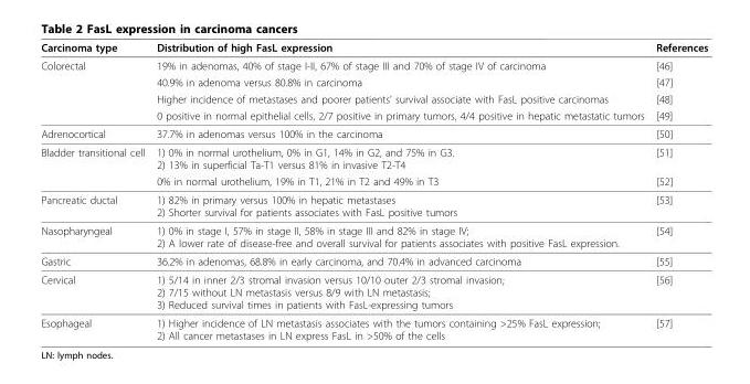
<table><thead><tr><td>Carcinoma type</td><td>Distribution of high FasL expression</td><td>References</td></tr></thead><tbody><tr><td rowspan="4">Colorectal</td><td>19% in adenomas, 40% of stage I-II, 67% of stage III and 70% of stage IV of carcinoma</td><td>[46]</td></tr><tr><td>40.9% in adenoma versus 80.8% in carcinoma</td><td>[47]</td></tr><tr><td>Higher incidence of metastases and poorer patients’ survival associate with FasL positive carcinomas</td><td>[48]</td></tr><tr><td>0 positive in normal epithelial cells, 2/7 positive in primary tumors, 4/4 positive in hepatic metastatic tumors</td><td>[49]</td></tr><tr><td>Adrenocortical</td><td>37.7% in adenomas versus 100% in the carcinoma</td><td>[50]</td></tr><tr><td rowspan="2">Bladder transitional cell</td><td>1) 0% in normal urothelium, 0% in G1, 14% in G2, and 75% in G3. 2) 13% in superficial Ta-T1 versus 81% in invasive T2-T4</td><td>[51]</td></tr><tr><td>0% in normal urothelium, 19% in T1, 21% in T2 and 49% in T3</td><td>[52]</td></tr><tr><td>Pancreatic ductal</td><td>1) 82% in primary versus 100% in hepatic metastases 2) Shorter survival for patients associates with FasL positive tumors</td><td>[53]</td></tr><tr><td>Nasopharyngeal</td><td>1) 0% in stage I, 57% in stage II, 58% in stage III and 82% in stage IV; 2) A lower rate of disease-free and overall survival for patients associates with positive FasL expression.</td><td>[54]</td></tr><tr><td>Gastric</td><td>36.2% in adenomas, 68.8% in early carcinoma, and 70.4% in advanced carcinoma</td><td>[55]</td></tr><tr><td>Cervical</td><td>1) 5/14 in inner 2/3 stromal invasion versus 10/10 outer 2/3 stromal invasion; 2) 7/15 without LN metastasis versus 8/9 with LN metastasis; 3) Reduced survival times in patients with FasL-expressing tumors</td><td>[56]</td></tr><tr><td>Esophageal</td><td>1) Higher incidence of LN metastasis associates with the tumors containing &gt;25% FasL expression; 2) All cancer metastases in LN express FasL in &gt;50% of the cells</td><td>[57]</td></tr></tbody></table>